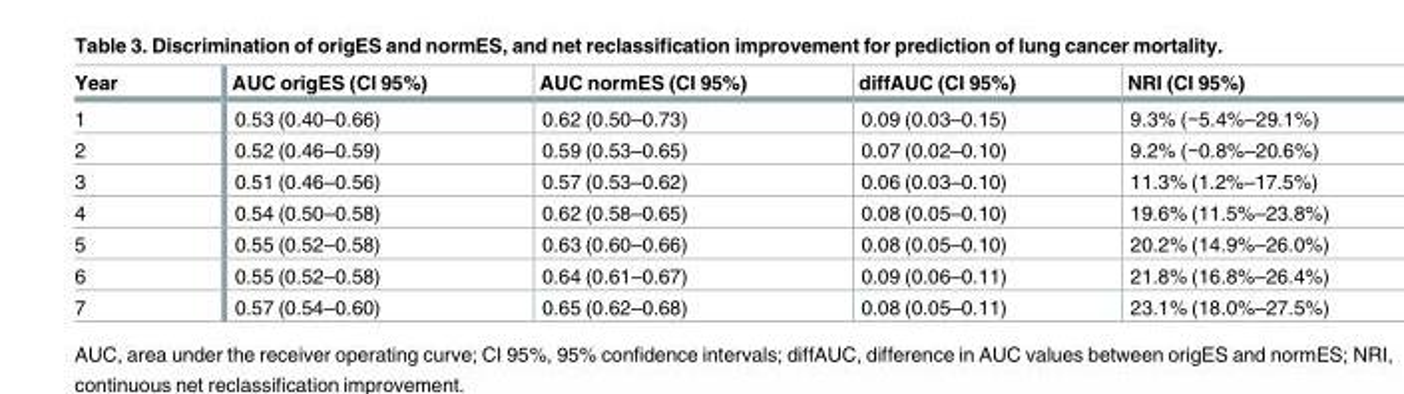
<table><thead><tr><td>Year</td><td>AUC origES (CI 95%)</td><td>AUC normES (CI 95%)</td><td>diffAUC (CI 95%)</td><td>NRI (CI 95%)</td></tr></thead><tbody><tr><td>1</td><td>0.53 (0.40–0.66)</td><td>0.62 (0.50–0.73)</td><td>0.09 (0.03–0.15)</td><td>9.3% (−5.4%–29.1%)</td></tr><tr><td>2</td><td>0.52 (0.46–0.59)</td><td>0.59 (0.53–0.65)</td><td>0.07 (0.02–0.10)</td><td>9.2% (−0.8%–20.6%)</td></tr><tr><td>3</td><td>0.51 (0.46–0.56)</td><td>0.57 (0.53–0.62)</td><td>0.06 (0.03–0.10)</td><td>11.3% (1.2%–17.5%)</td></tr><tr><td>4</td><td>0.54 (0.50–0.58)</td><td>0.62 (0.58–0.65)</td><td>0.08 (0.05–0.10)</td><td>19.6% (11.5%–23.8%)</td></tr><tr><td>5</td><td>0.55 (0.52–0.58)</td><td>0.63 (0.60–0.66)</td><td>0.08 (0.05–0.10)</td><td>20.2% (14.9%–26.0%)</td></tr><tr><td>6</td><td>0.55 (0.52–0.58)</td><td>0.64 (0.61–0.67)</td><td>0.09 (0.06–0.11)</td><td>21.8% (16.8%–26.4%)</td></tr><tr><td>7</td><td>0.57 (0.54–0.60)</td><td>0.65 (0.62–0.68)</td><td>0.08 (0.05–0.11)</td><td>23.1% (18.0%–27.5%)</td></tr></tbody></table>